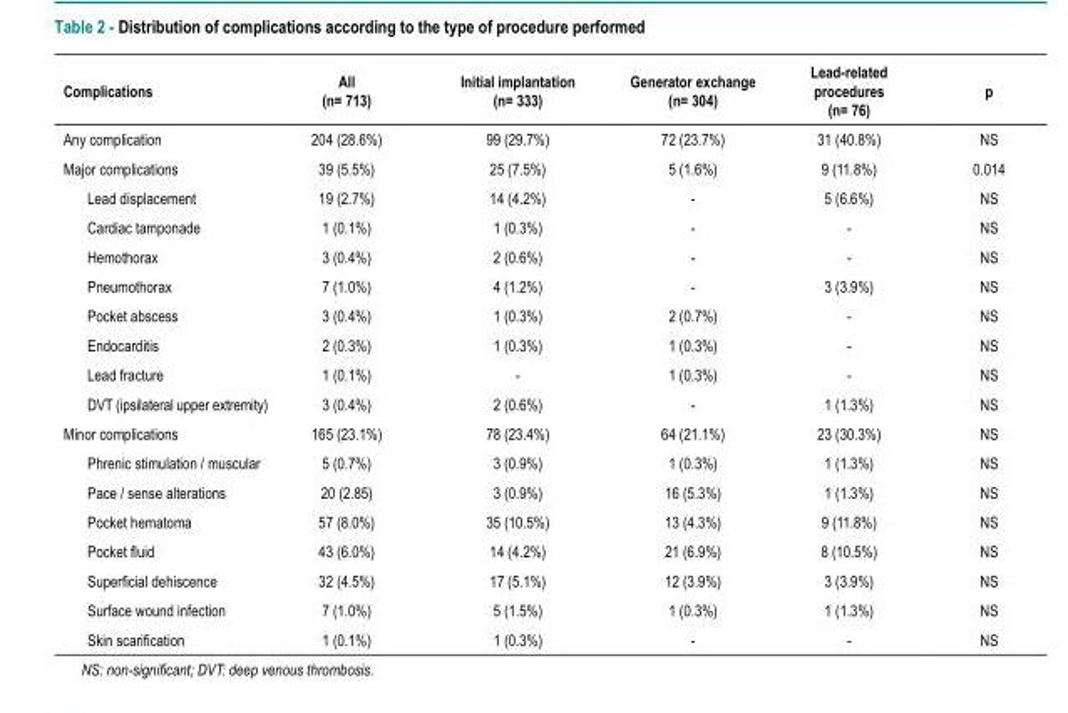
<table><thead><tr><td>Complications</td><td>All (n= 713)</td><td>Initial implantation (n= 333)</td><td>Generator exchange (n= 304)</td><td>Lead-related procedures (n= 76)</td><td>p</td></tr></thead><tbody><tr><td>Any complication</td><td>204 (28.6%)</td><td>99 (29.7%)</td><td>72 (23.7%)</td><td>31 (40.8%)</td><td>NS</td></tr><tr><td>Major complications</td><td>39 (5.5%)</td><td>25 (7.5%)</td><td>5 (1.6%)</td><td>9 (11.8%)</td><td>0.014</td></tr><tr><td>Lead displacement</td><td>19 (2.7%)</td><td>14 (4.2%)</td><td>-</td><td>5 (6.6%)</td><td>NS</td></tr><tr><td>Cardiac tamponade</td><td>1 (0.1%)</td><td>1 (0.3%)</td><td>-</td><td>-</td><td>NS</td></tr><tr><td>Hemothorax</td><td>3 (0.4%)</td><td>2 (0.6%)</td><td>-</td><td>-</td><td>NS</td></tr><tr><td>Pneumothorax</td><td>7 (1.0%)</td><td>4 (1.2%)</td><td>-</td><td>3 (3.9%)</td><td>NS</td></tr><tr><td>Pocket abscess</td><td>3 (0.4%)</td><td>1 (0.3%)</td><td>2 (0.7%)</td><td>-</td><td>NS</td></tr><tr><td>Endocarditis</td><td>2 (0.3%)</td><td>1 (0.3%)</td><td>1 (0.3%)</td><td>-</td><td>NS</td></tr><tr><td>Lead fracture</td><td>1 (0.1%)</td><td>-</td><td>1 (0.3%)</td><td>-</td><td>NS</td></tr><tr><td>DVT (ipsilateral upper extremity)</td><td>3 (0.4%)</td><td>2 (0.6%)</td><td>-</td><td>1 (1.3%)</td><td>NS</td></tr><tr><td>Minor complications</td><td>165 (23.1%)</td><td>78 (23.4%)</td><td>64 (21.1%)</td><td>23 (30.3%)</td><td>NS</td></tr><tr><td>Phrenic stimulation / muscular</td><td>5 (0.7%)</td><td>3 (0.9%)</td><td>1 (0.3%)</td><td>1 (1.3%)</td><td>NS</td></tr><tr><td>Pace / sense alterations</td><td>20 (2.85)</td><td>3 (0.9%)</td><td>16 (5.3%)</td><td>1 (1.3%)</td><td>NS</td></tr><tr><td>Pocket hematoma</td><td>57 (8.0%)</td><td>35 (10.5%)</td><td>13 (4.3%)</td><td>9 (11.8%)</td><td>NS</td></tr><tr><td>Pocket fluid</td><td>43 (6.0%)</td><td>14 (4.2%)</td><td>21 (6.9%)</td><td>8 (10.5%)</td><td>NS</td></tr><tr><td>Superficial dehiscence</td><td>32 (4.5%)</td><td>17 (5.1%)</td><td>12 (3.9%)</td><td>3 (3.9%)</td><td>NS</td></tr><tr><td>Surface wound infection</td><td>7 (1.0%)</td><td>5 (1.5%)</td><td>1 (0.3%)</td><td>1 (1.3%)</td><td>NS</td></tr><tr><td>Skin scarification</td><td>1 (0.1%)</td><td>1 (0.3%)</td><td>-</td><td>-</td><td>NS</td></tr></tbody></table>